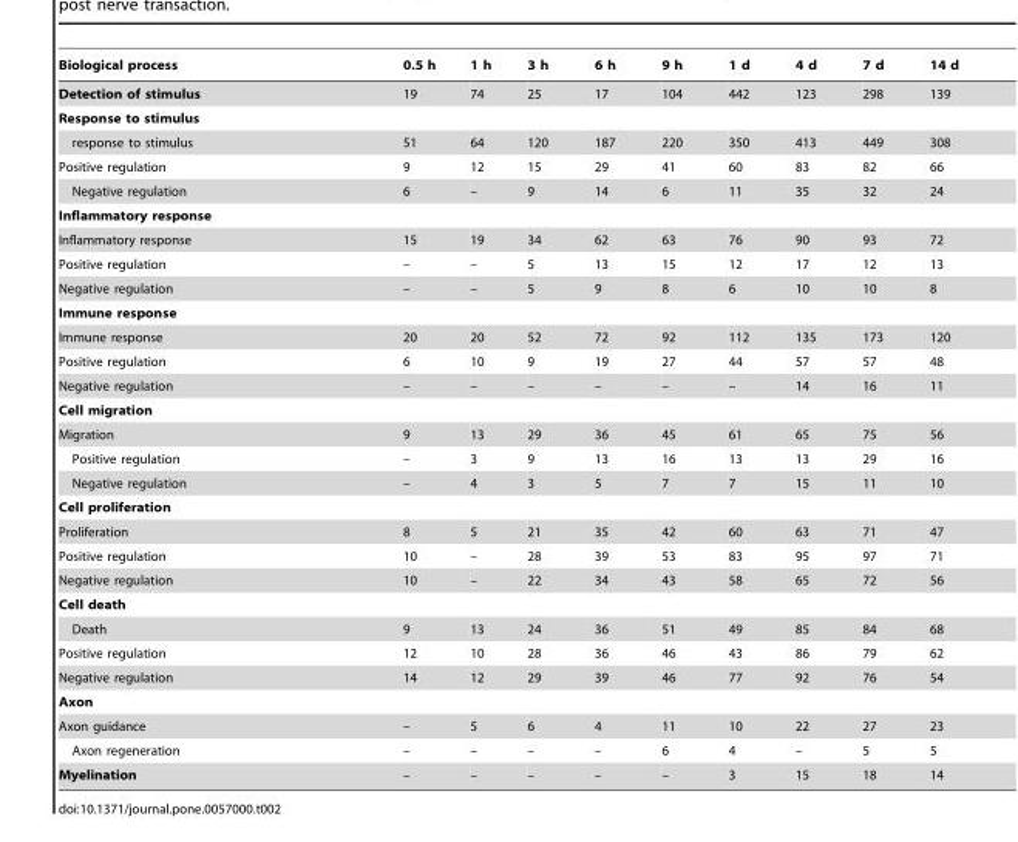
<table><thead><tr><td>Biological process</td><td>0.5 h</td><td>1 h</td><td>3 h</td><td>6 h</td><td>9 h</td><td>1 d</td><td>4 d</td><td>7 d</td><td>14 d</td></tr></thead><tbody><tr><td>Detection of stimulus</td><td>19</td><td>74</td><td>25</td><td>17</td><td>104</td><td>442</td><td>123</td><td>298</td><td>139</td></tr><tr><td colspan="10">Response to stimulus</td></tr><tr><td>response to stimulus</td><td>51</td><td>64</td><td>120</td><td>187</td><td>220</td><td>350</td><td>413</td><td>449</td><td>308</td></tr><tr><td>Positive regulation</td><td>9</td><td>12</td><td>15</td><td>29</td><td>41</td><td>60</td><td>83</td><td>82</td><td>66</td></tr><tr><td>Negative regulation</td><td>6</td><td>–</td><td>9</td><td>14</td><td>6</td><td>11</td><td>35</td><td>32</td><td>24</td></tr><tr><td colspan="10">Inflammatory response</td></tr><tr><td>Inflammatory response</td><td>15</td><td>19</td><td>34</td><td>62</td><td>63</td><td>76</td><td>90</td><td>93</td><td>72</td></tr><tr><td>Positive regulation</td><td>–</td><td>–</td><td>5</td><td>13</td><td>15</td><td>12</td><td>17</td><td>12</td><td>13</td></tr><tr><td>Negative regulation</td><td>–</td><td>–</td><td>5</td><td>9</td><td>8</td><td>6</td><td>10</td><td>10</td><td>8</td></tr><tr><td colspan="10">Immune response</td></tr><tr><td>Immune response</td><td>20</td><td>20</td><td>52</td><td>72</td><td>92</td><td>112</td><td>135</td><td>173</td><td>120</td></tr><tr><td>Positive regulation</td><td>6</td><td>10</td><td>9</td><td>19</td><td>27</td><td>44</td><td>57</td><td>57</td><td>48</td></tr><tr><td>Negative regulation</td><td>–</td><td>–</td><td>–</td><td>–</td><td>–</td><td>–</td><td>14</td><td>16</td><td>11</td></tr><tr><td colspan="10">Cell migration</td></tr><tr><td>Migration</td><td>9</td><td>13</td><td>29</td><td>36</td><td>45</td><td>61</td><td>65</td><td>75</td><td>56</td></tr><tr><td>Positive regulation</td><td>–</td><td>3</td><td>9</td><td>13</td><td>16</td><td>13</td><td>13</td><td>29</td><td>16</td></tr><tr><td>Negative regulation</td><td>–</td><td>4</td><td>3</td><td>5</td><td>7</td><td>7</td><td>15</td><td>11</td><td>10</td></tr><tr><td colspan="10">Cell proliferation</td></tr><tr><td>Proliferation</td><td>8</td><td>5</td><td>21</td><td>35</td><td>42</td><td>60</td><td>63</td><td>71</td><td>47</td></tr><tr><td>Positive regulation</td><td>10</td><td>–</td><td>28</td><td>39</td><td>53</td><td>83</td><td>95</td><td>97</td><td>71</td></tr><tr><td>Negative regulation</td><td>10</td><td>–</td><td>22</td><td>34</td><td>43</td><td>58</td><td>65</td><td>72</td><td>56</td></tr><tr><td colspan="10">Cell death</td></tr><tr><td>Death</td><td>9</td><td>13</td><td>24</td><td>36</td><td>51</td><td>49</td><td>85</td><td>84</td><td>68</td></tr><tr><td>Positive regulation</td><td>12</td><td>10</td><td>28</td><td>36</td><td>46</td><td>43</td><td>86</td><td>79</td><td>62</td></tr><tr><td>Negative regulation</td><td>14</td><td>12</td><td>29</td><td>39</td><td>46</td><td>77</td><td>92</td><td>76</td><td>54</td></tr><tr><td colspan="10">Axon</td></tr><tr><td>Axon guidance</td><td>–</td><td>5</td><td>6</td><td>4</td><td>11</td><td>10</td><td>22</td><td>27</td><td>23</td></tr><tr><td>Axon regeneration</td><td>–</td><td>–</td><td>–</td><td>–</td><td>6</td><td>4</td><td>–</td><td>5</td><td>5</td></tr><tr><td>Myelination</td><td>–</td><td>–</td><td>–</td><td>–</td><td>–</td><td>3</td><td>15</td><td>18</td><td>14</td></tr></tbody></table>